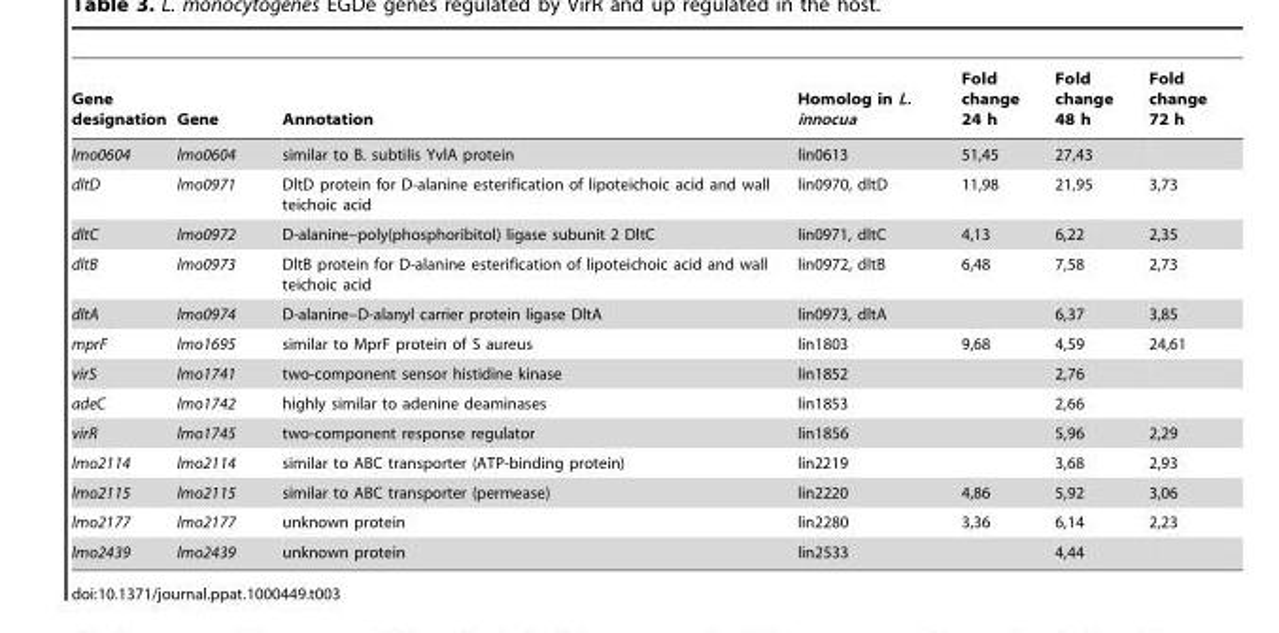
<table><thead><tr><td>Gene designation</td><td>Gene</td><td>Annotation</td><td>Homolog in L. innocua</td><td>Fold change 24 h</td><td>Fold change 48 h</td><td>Fold change 72 h</td></tr></thead><tbody><tr><td>lmo0604</td><td>lmo0604</td><td>similar to B. subtilis YvlA protein</td><td>lin0613</td><td>51,45</td><td>27,43</td><td></td></tr><tr><td>dltD</td><td>lmo0971</td><td>DltD protein for D-alanine esterification of lipoteichoic acid and wall teichoic acid</td><td>lin0970, dltD</td><td>11,98</td><td>21,95</td><td>3,73</td></tr><tr><td>dltC</td><td>lmo0972</td><td>D-alanine–poly(phosphoribitol) ligase subunit 2 DltC</td><td>lin0971, dltC</td><td>4,13</td><td>6,22</td><td>2,35</td></tr><tr><td>dltB</td><td>lmo0973</td><td>DltB protein for D-alanine esterification of lipoteichoic acid and wall teichoic acid</td><td>lin0972, dltB</td><td>6,48</td><td>7,58</td><td>2,73</td></tr><tr><td>dltA</td><td>lmo0974</td><td>D-alanine–D-alanyl carrier protein ligase DltA</td><td>lin0973, dltA</td><td></td><td>6,37</td><td>3,85</td></tr><tr><td>mprF</td><td>lmo1695</td><td>similar to MprF protein of S aureus</td><td>lin1803</td><td>9,68</td><td>4,59</td><td>24,61</td></tr><tr><td>virS</td><td>lmo1741</td><td>two-component sensor histidine kinase</td><td>lin1852</td><td></td><td>2,76</td><td></td></tr><tr><td>adeC</td><td>lmo1742</td><td>highly similar to adenine deaminases</td><td>lin1853</td><td></td><td>2,66</td><td></td></tr><tr><td>virR</td><td>lmo1745</td><td>two-component response regulator</td><td>lin1856</td><td></td><td>5,96</td><td>2,29</td></tr><tr><td>lmo2114</td><td>lmo2114</td><td>similar to ABC transporter (ATP-binding protein)</td><td>lin2219</td><td></td><td>3,68</td><td>2,93</td></tr><tr><td>lmo2115</td><td>lmo2115</td><td>similar to ABC transporter (permease)</td><td>lin2220</td><td>4,86</td><td>5,92</td><td>3,06</td></tr><tr><td>lmo2177</td><td>lmo2177</td><td>unknown protein</td><td>lin2280</td><td>3,36</td><td>6,14</td><td>2,23</td></tr><tr><td>lmo2439</td><td>lmo2439</td><td>unknown protein</td><td>lin2533</td><td></td><td>4,44</td><td></td></tr></tbody></table>